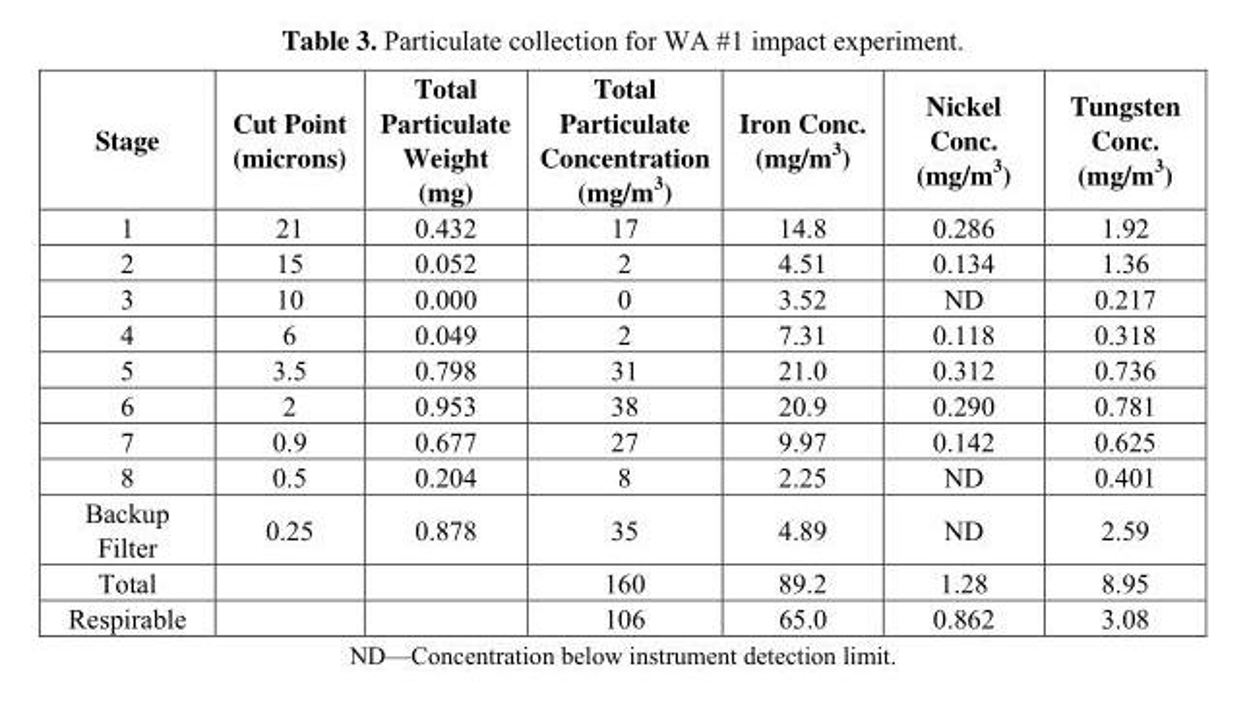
<table><thead><tr><td>Stage</td><td>Cut Point (microns)</td><td>Total Particulate Weight (mg)</td><td>Total Particulate Concentration (mg/m<sup>3</sup>)</td><td>Iron Conc. (mg/m<sup>3</sup>)</td><td>Nickel Conc. (mg/m<sup>3</sup>)</td><td>Tungsten Conc. (mg/m<sup>3</sup>)</td></tr></thead><tbody><tr><td>1</td><td>21</td><td>0.432</td><td>17</td><td>14.8</td><td>0.286</td><td>1.92</td></tr><tr><td>2</td><td>15</td><td>0.052</td><td>2</td><td>4.51</td><td>0.134</td><td>1.36</td></tr><tr><td>3</td><td>10</td><td>0.000</td><td>0</td><td>3.52</td><td>ND</td><td>0.217</td></tr><tr><td>4</td><td>6</td><td>0.049</td><td>2</td><td>7.31</td><td>0.118</td><td>0.318</td></tr><tr><td>5</td><td>3.5</td><td>0.798</td><td>31</td><td>21.0</td><td>0.312</td><td>0.736</td></tr><tr><td>6</td><td>2</td><td>0.953</td><td>38</td><td>20.9</td><td>0.290</td><td>0.781</td></tr><tr><td>7</td><td>0.9</td><td>0.677</td><td>27</td><td>9.97</td><td>0.142</td><td>0.625</td></tr><tr><td>8</td><td>0.5</td><td>0.204</td><td>8</td><td>2.25</td><td>ND</td><td>0.401</td></tr><tr><td>Backup Filter</td><td>0.25</td><td>0.878</td><td>35</td><td>4.89</td><td>ND</td><td>2.59</td></tr><tr><td>Total</td><td></td><td></td><td>160</td><td>89.2</td><td>1.28</td><td>8.95</td></tr><tr><td>Respirable</td><td></td><td></td><td>106</td><td>65.0</td><td>0.862</td><td>3.08</td></tr></tbody></table>